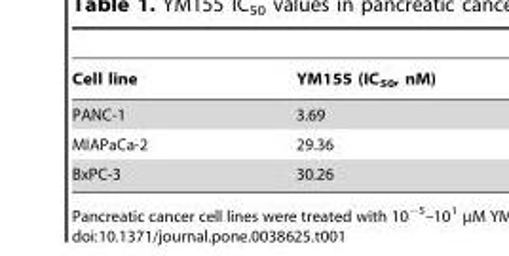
<table><thead><tr><td>Cell line</td><td>YM155 (IC<sub>50</sub>, nM)</td></tr></thead><tbody><tr><td>PANC-1</td><td>3.69</td></tr><tr><td>MIAPaCa-2</td><td>29.36</td></tr><tr><td>BxPC-3</td><td>30.26</td></tr></tbody></table>